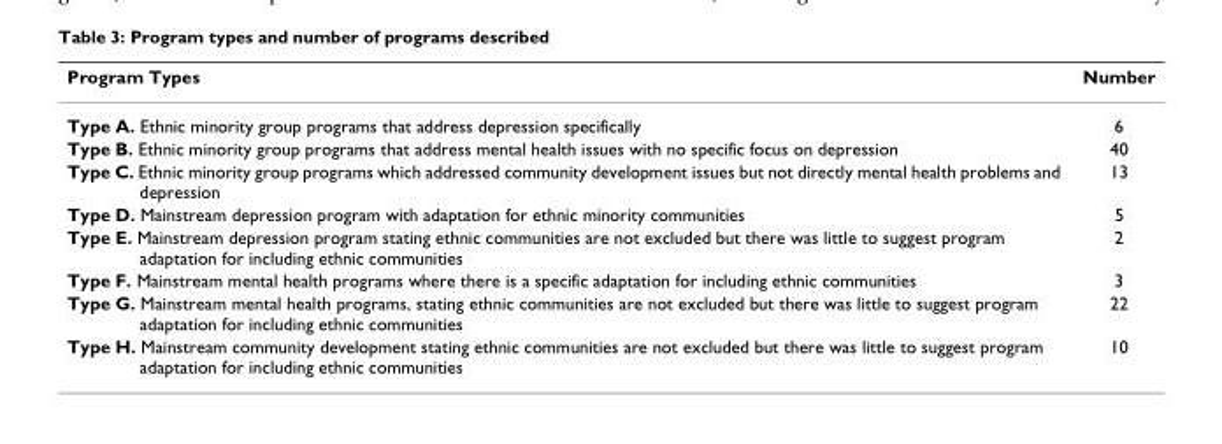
<table><thead><tr><td colspan="2">Program Types</td><td rowspan="2">Number 6</td></tr><tr><td>Type A.</td><td>Ethnic minority group programs that address depression specifically</td></tr></thead><tbody><tr><td>Type B.</td><td>Ethnic minority group programs that address mental health issues with no specific focus on depression</td><td>40</td></tr><tr><td>Type C.</td><td>Ethnic minority group programs which addressed community development issues but not directly mental health problems and depression</td><td>13</td></tr><tr><td>Type D.</td><td>Mainstream depression program with adaptation for ethnic minority communities</td><td>5</td></tr><tr><td>Type E.</td><td>Mainstream depression program stating ethnic communities are not excluded but there was little to suggest program adaptation for including ethnic communities</td><td>2</td></tr><tr><td>Type F.</td><td>Mainstream mental health programs where there is a specific adaptation for including ethnic communities</td><td>3</td></tr><tr><td>Type G.</td><td>Mainstream mental health programs, stating ethnic communities are not excluded but there was little to suggest program adaptation for including ethnic communities</td><td>22</td></tr><tr><td>Type H.</td><td>Mainstream community development stating ethnic communities are not excluded but there was little to suggest program adaptation for including ethnic communities</td><td>10</td></tr></tbody></table>